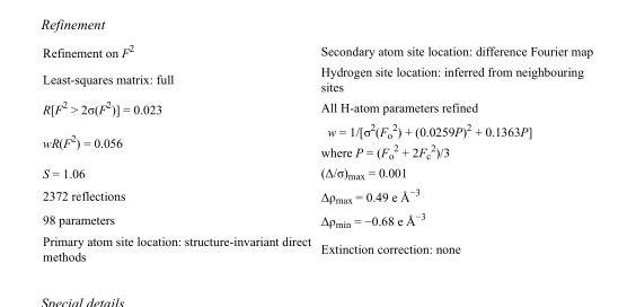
<table><tbody><tr><td>Refinement on F<sup>2</sup></td><td>Secondary atom site location: difference Fourier map</td></tr><tr><td>Least-squares matrix: full</td><td>Hydrogen site location: inferred from neighbouring sites</td></tr><tr><td>R[F<sup>2</sup> &gt; 2σ(F<sup>2</sup>)] = 0.023</td><td>All H-atom parameters refined</td></tr><tr><td>wR(F<sup>2</sup>) = 0.056</td><td>w = 1/[σ<sup>2</sup>(F<sub>o</sub> <sup>2</sup>) + (0.0259P)<sup>2</sup> + 0.1363P] where P = (F<sub>o</sub> <sup>2</sup> + 2F<sub>c</sub> <sup>2</sup>)/3</td></tr><tr><td>S = 1.06</td><td>(Δ/σ)<sub>max</sub> = 0.001</td></tr><tr><td>2372 reflections</td><td>Δρ<sub>max</sub> = 0.49 e Å<sup>−3</sup></td></tr><tr><td>98 parameters</td><td>Δρ<sub>min</sub> = −0.68 e Å<sup>−3</sup></td></tr><tr><td>Primary atom site location: structure-invariant direct methods</td><td>Extinction correction: none</td></tr></tbody></table>